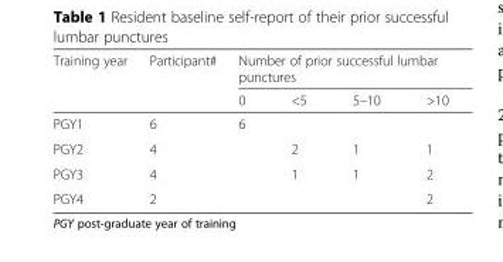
<table><thead><tr><td rowspan="2">Training year</td><td rowspan="2">Participant#</td><td colspan="4">Number of prior successful lumbar punctures</td></tr><tr><td>0</td><td>&lt;5</td><td>5–10</td><td>&gt;10</td></tr></thead><tbody><tr><td>PGY1</td><td>6</td><td>6</td><td></td><td></td><td></td></tr><tr><td>PGY2</td><td>4</td><td></td><td>2</td><td>1</td><td>1</td></tr><tr><td>PGY3</td><td>4</td><td></td><td>1</td><td>1</td><td>2</td></tr><tr><td>PGY4</td><td>2</td><td></td><td></td><td></td><td>2</td></tr></tbody></table>